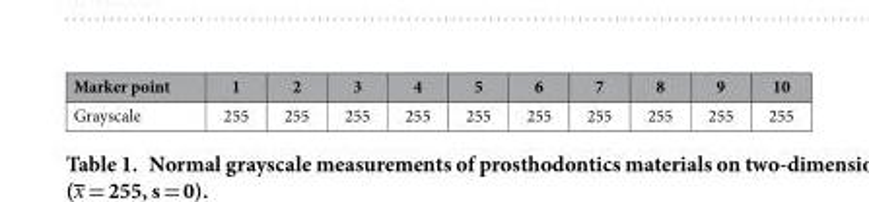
<table><tbody><tr><td>Marker point</td><td>1</td><td>2</td><td>3</td><td>4</td><td>5</td><td>6</td><td>7</td><td>8</td><td>9</td><td>10</td></tr><tr><td>Grayscale</td><td>255</td><td>255</td><td>255</td><td>255</td><td>255</td><td>255</td><td>255</td><td>255</td><td>255</td><td>255</td></tr></tbody></table>